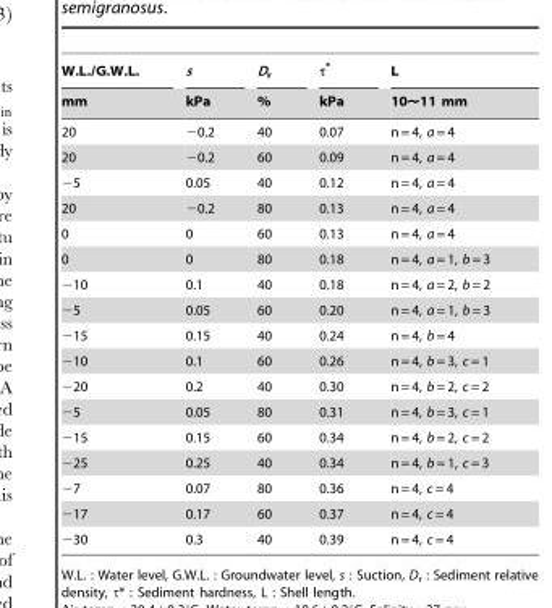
<table><thead><tr><td rowspan="2">W.L./G.W.L. mm</td><td rowspan="2">s kPa</td><td rowspan="2">D<sub>r</sub> %</td><td rowspan="2">τ* kPa</td><td rowspan="2">L 10∼11 mm</td></tr><tr></tr></thead><tbody><tr><td>20</td><td>−0.2</td><td>40</td><td>0.07</td><td>n = 4, a = 4</td></tr><tr><td>20</td><td>−0.2</td><td>60</td><td>0.09</td><td>n = 4, a = 4</td></tr><tr><td>−5</td><td>0.05</td><td>40</td><td>0.12</td><td>n = 4, a = 4</td></tr><tr><td>20</td><td>−0.2</td><td>80</td><td>0.13</td><td>n = 4, a = 4</td></tr><tr><td>0</td><td>0</td><td>60</td><td>0.13</td><td>n = 4, a = 4</td></tr><tr><td>0</td><td>0</td><td>80</td><td>0.18</td><td>n = 4, a = 1, b = 3</td></tr><tr><td>−10</td><td>0.1</td><td>40</td><td>0.18</td><td>n = 4, a = 2, b = 2</td></tr><tr><td>−5</td><td>0.05</td><td>60</td><td>0.20</td><td>n = 4, a = 1, b = 3</td></tr><tr><td>−15</td><td>0.15</td><td>40</td><td>0.24</td><td>n = 4, b = 4</td></tr><tr><td>−10</td><td>0.1</td><td>60</td><td>0.26</td><td>n = 4, b = 3, c = 1</td></tr><tr><td>−20</td><td>0.2</td><td>40</td><td>0.30</td><td>n = 4, b = 2, c = 2</td></tr><tr><td>−5</td><td>0.05</td><td>80</td><td>0.31</td><td>n = 4, b = 3, c = 1</td></tr><tr><td>−15</td><td>0.15</td><td>60</td><td>0.34</td><td>n = 4, b = 2, c = 2</td></tr><tr><td>−25</td><td>0.25</td><td>40</td><td>0.34</td><td>n = 4, b = 1, c = 3</td></tr><tr><td>−7</td><td>0.07</td><td>80</td><td>0.36</td><td>n = 4, c = 4</td></tr><tr><td>−17</td><td>0.17</td><td>60</td><td>0.37</td><td>n = 4, c = 4</td></tr><tr><td>−30</td><td>0.3</td><td>40</td><td>0.39</td><td>n = 4, c = 4</td></tr></tbody></table>